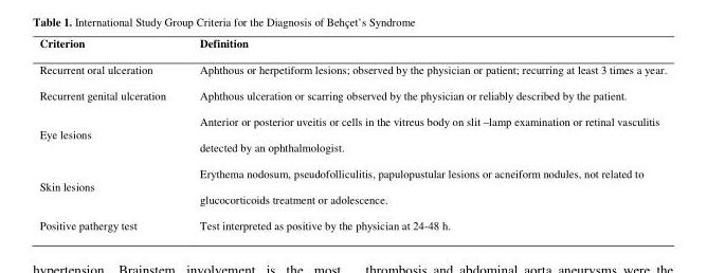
<table><thead><tr><td>Criterion</td><td>Definition</td></tr></thead><tbody><tr><td>Recurrent oral ulceration</td><td>Aphthous or herpetiform lesions; observed by the physician or patient; recurring at least 3 times a year.</td></tr><tr><td>Recurrent genital ulceration</td><td>Aphthous ulceration or scarring observed by the physician or reliably described by the patient.</td></tr><tr><td>Eye lesions</td><td>Anterior or posterior uveitis or cells in the vitreus body on slit –lamp examination or retinal vasculitis detected by an ophthalmologist.</td></tr><tr><td>Skin lesions</td><td>Erythema nodosum, pseudofolliculitis, papulopustular lesions or acneiform nodules, not related to glucocorticoids treatment or adolescence.</td></tr><tr><td>Positive pathergy test</td><td>Test interpreted as positive by the physician at 24-48 h.</td></tr></tbody></table>